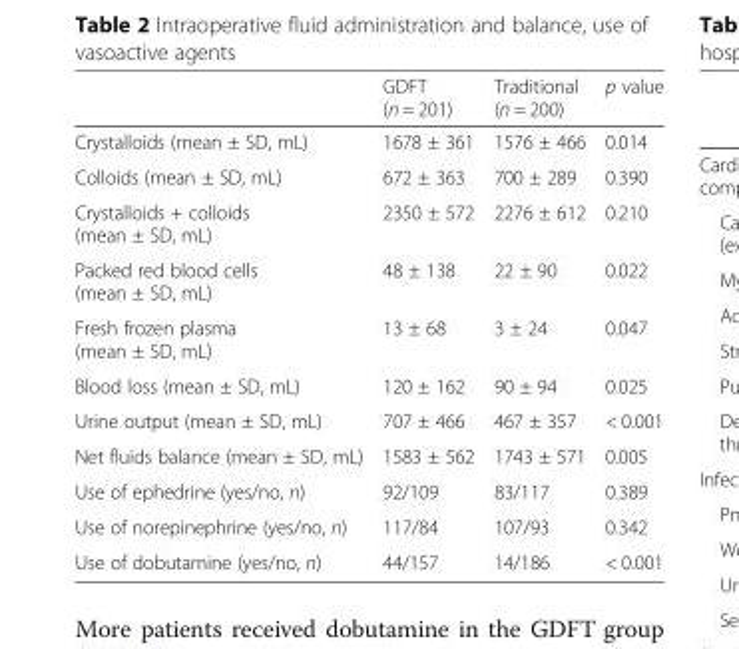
<table><thead><tr><td></td><td>GDFT (n = 201)</td><td>Traditional (n = 200)</td><td>p value</td></tr></thead><tbody><tr><td>Crystalloids (mean ± SD, mL)</td><td>1678 ± 361</td><td>1576 ± 466</td><td>0.014</td></tr><tr><td>Colloids (mean ± SD, mL)</td><td>672 ± 363</td><td>700 ± 289</td><td>0.390</td></tr><tr><td>Crystalloids + colloids (mean ± SD, mL)</td><td>2350 ± 572</td><td>2276 ± 612</td><td>0.210</td></tr><tr><td>Packed red blood cells (mean ± SD, mL)</td><td>48 ± 138</td><td>22 ± 90</td><td>0.022</td></tr><tr><td>Fresh frozen plasma (mean ± SD, mL)</td><td>13 ± 68</td><td>3 ± 24</td><td>0.047</td></tr><tr><td>Blood loss (mean ± SD, mL)</td><td>120 ± 162</td><td>90 ± 94</td><td>0.025</td></tr><tr><td>Urine output (mean ± SD, mL)</td><td>707 ± 466</td><td>467 ± 357</td><td>&lt; 0.001</td></tr><tr><td>Net fluids balance (mean ± SD, mL)</td><td>1583 ± 562</td><td>1743 ± 571</td><td>0.005</td></tr><tr><td>Use of ephedrine (yes/no, n)</td><td>92/109</td><td>83/117</td><td>0.389</td></tr><tr><td>Use of norepinephrine (yes/no, n)</td><td>117/84</td><td>107/93</td><td>0.342</td></tr><tr><td>Use of dobutamine (yes/no, n)</td><td>44/157</td><td>14/186</td><td>&lt; 0.001</td></tr></tbody></table>